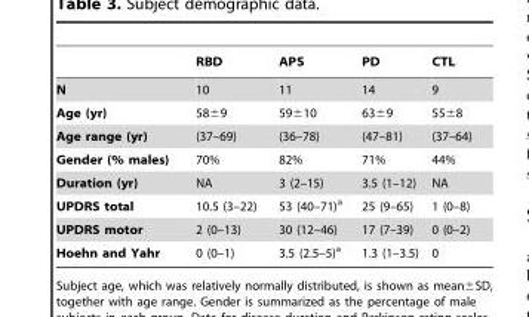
<table><thead><tr><td></td><td>RBD</td><td>APS</td><td>PD</td><td>CTL</td></tr></thead><tbody><tr><td>N</td><td>10</td><td>11</td><td>14</td><td>9</td></tr><tr><td>Age (yr)</td><td>58±9</td><td>59±10</td><td>63±9</td><td>55±8</td></tr><tr><td>Age range (yr)</td><td>(37–69)</td><td>(36–78)</td><td>(47–81)</td><td>(37–64)</td></tr><tr><td>Gender (% males)</td><td>70%</td><td>82%</td><td>71%</td><td>44%</td></tr><tr><td>Duration (yr)</td><td>NA</td><td>3 (2–15)</td><td>3.5 (1–12)</td><td>NA</td></tr><tr><td>UPDRS total</td><td>10.5 (3–22)</td><td>53 (40–71)<sup>a</sup></td><td>25 (9–65)</td><td>1 (0–8)</td></tr><tr><td>UPDRS motor</td><td>2 (0–13)</td><td>30 (12–46)</td><td>17 (7–39)</td><td>0 (0–2)</td></tr><tr><td>Hoehn and Yahr</td><td>0 (0–1)</td><td>3.5 (2.5–5)<sup>a</sup></td><td>1.3 (1–3.5)</td><td>0</td></tr></tbody></table>